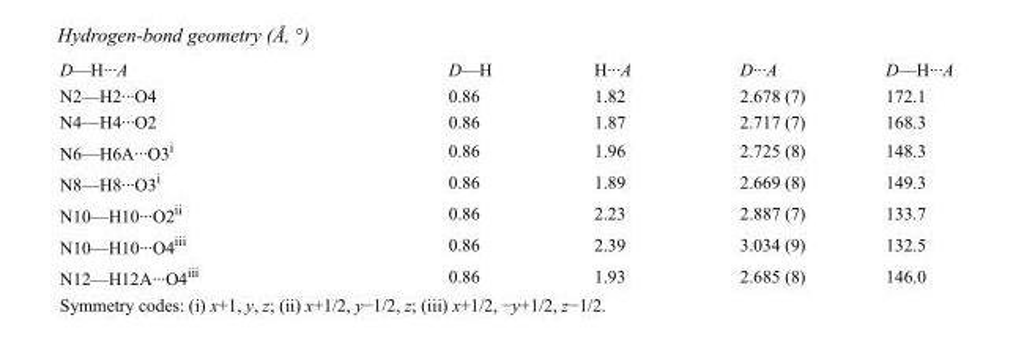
<table><tbody><tr><td>D—H···A</td><td>D—H</td><td>H···A</td><td>D···A</td><td>D—H···A</td></tr><tr><td>N2—H2···O4</td><td>0.86</td><td>1.82</td><td>2.678 (7)</td><td>172.1</td></tr><tr><td>N4—H4···O2</td><td>0.86</td><td>1.87</td><td>2.717 (7)</td><td>168.3</td></tr><tr><td>N6—H6A···O3<sup>i</sup></td><td>0.86</td><td>1.96</td><td>2.725 (8)</td><td>148.3</td></tr><tr><td>N8—H8···O3<sup>i</sup></td><td>0.86</td><td>1.89</td><td>2.669 (8)</td><td>149.3</td></tr><tr><td>N10—H10···O2<sup>ii</sup></td><td>0.86</td><td>2.23</td><td>2.887 (7)</td><td>133.7</td></tr><tr><td>N10—H10···O4<sup>iii</sup></td><td>0.86</td><td>2.39</td><td>3.034 (9)</td><td>132.5</td></tr><tr><td>N12—H12A···O4<sup>iii</sup></td><td>0.86</td><td>1.93</td><td>2.685 (8)</td><td>146.0</td></tr></tbody></table>